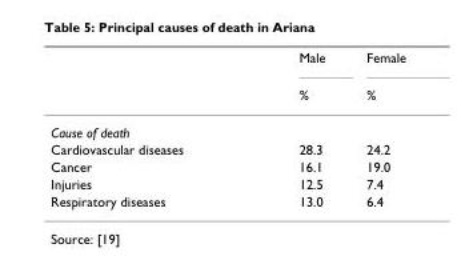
<table><thead><tr><td rowspan="2"></td><td rowspan="2">Male %</td><td rowspan="2">Female %</td></tr><tr></tr></thead><tbody><tr><td colspan="3">Cause of death</td></tr><tr><td>Cardiovascular diseases</td><td>28.3</td><td>24.2</td></tr><tr><td>Cancer</td><td>16.1</td><td>19.0</td></tr><tr><td>Injuries</td><td>12.5</td><td>7.4</td></tr><tr><td>Respiratory diseases</td><td>13.0</td><td>6.4</td></tr></tbody></table>